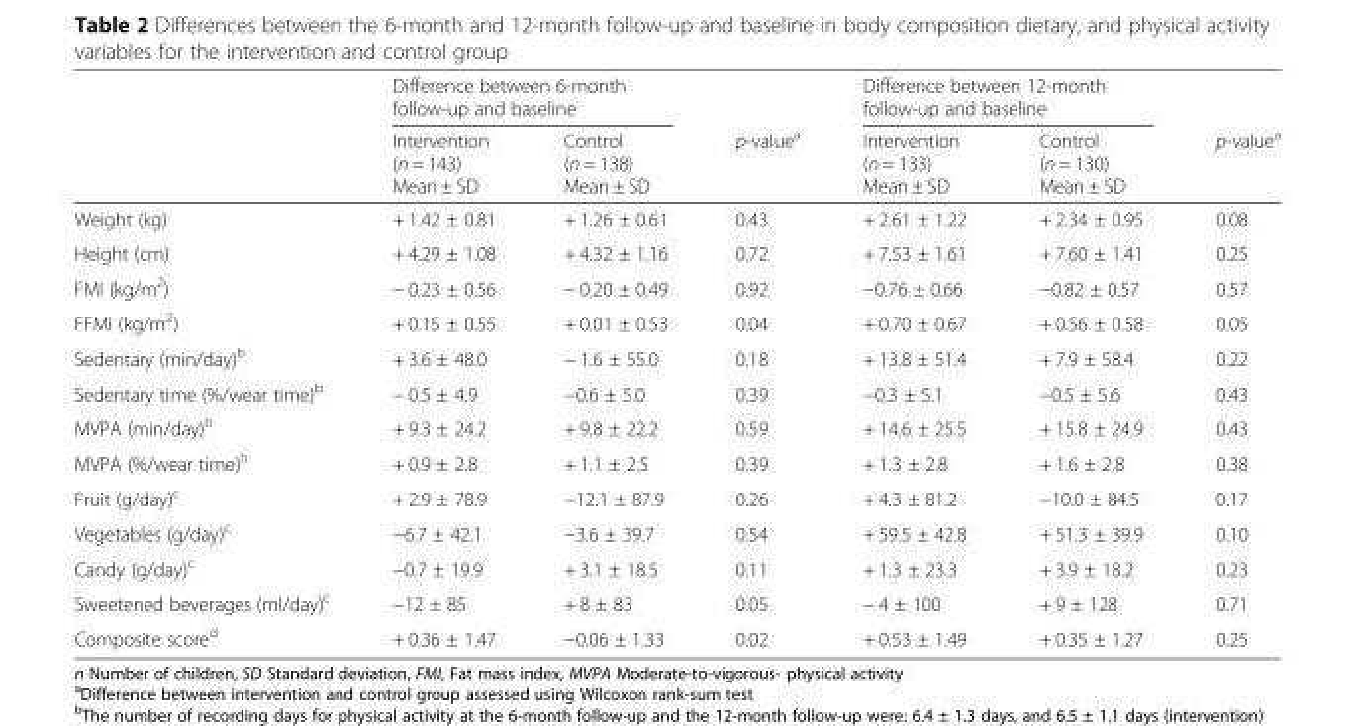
<table><thead><tr><td rowspan="2"></td><td colspan="2">Difference between 6-month follow-up and baseline</td><td rowspan="2">p-value<sup>a</sup></td><td colspan="2">Difference between 12-month follow-up and baseline</td><td rowspan="2">p-value<sup>a</sup></td></tr><tr><td>Intervention (n = 143) Mean ± SD</td><td>Control (n = 138) Mean ± SD</td><td>Intervention (n = 133) Mean ± SD</td><td>Control (n = 130) Mean ± SD</td></tr></thead><tbody><tr><td>Weight (kg)</td><td>+ 1.42 ± 0.81</td><td>+ 1.26 ± 0.61</td><td>0.43</td><td>+ 2.61 ± 1.22</td><td>+ 2.34 ± 0.95</td><td>0.08</td></tr><tr><td>Height (cm)</td><td>+ 4.29 ± 1.08</td><td>+ 4.32 ± 1.16</td><td>0.72</td><td>+ 7.53 ± 1.61</td><td>+ 7.60 ± 1.41</td><td>0.25</td></tr><tr><td>FMI (kg/m<sup>2</sup>)</td><td>− 0.23 ± 0.56</td><td>− 0.20 ± 0.49</td><td>0.92</td><td>−0.76 ± 0.66</td><td>−0.82 ± 0.57</td><td>0.57</td></tr><tr><td>FFMI (kg/m<sup>2</sup>)</td><td>+ 0.15 ± 0.55</td><td>+ 0.01 ± 0.53</td><td>0.04</td><td>+ 0.70 ± 0.67</td><td>+ 0.56 ± 0.58</td><td>0.05</td></tr><tr><td>Sedentary (min/day)<sup>b</sup></td><td>+ 3.6 ± 48.0</td><td>− 1.6 ± 55.0</td><td>0.18</td><td>+ 13.8 ± 51.4</td><td>+ 7.9 ± 58.4</td><td>0.22</td></tr><tr><td>Sedentary time (%/wear time)<sup>b</sup></td><td>− 0.5 ± 4.9</td><td>−0.6 ± 5.0</td><td>0.39</td><td>−0.3 ± 5.1</td><td>−0.5 ± 5.6</td><td>0.43</td></tr><tr><td>MVPA (min/day)<sup>b</sup></td><td>+ 9.3 ± 24.2</td><td>+ 9.8 ± 22.2</td><td>0.59</td><td>+ 14.6 ± 25.5</td><td>+ 15.8 ± 24.9</td><td>0.43</td></tr><tr><td>MVPA (%/wear time)<sup>b</sup></td><td>+ 0.9 ± 2.8</td><td>+ 1.1 ± 2.5</td><td>0.39</td><td>+ 1.3 ± 2.8</td><td>+ 1.6 ± 2.8</td><td>0.38</td></tr><tr><td>Fruit (g/day)<sup>c</sup></td><td>+ 2.9 ± 78.9</td><td>−12.1 ± 87.9</td><td>0.26</td><td>+ 4.3 ± 81.2</td><td>−10.0 ± 84.5</td><td>0.17</td></tr><tr><td>Vegetables (g/day)<sup>c</sup></td><td>−6.7 ± 42.1</td><td>−3.6 ± 39.7</td><td>0.54</td><td>+ 59.5 ± 42.8</td><td>+ 51.3 ± 39.9</td><td>0.10</td></tr><tr><td>Candy (g/day)<sup>c</sup></td><td>−0.7 ± 19.9</td><td>+ 3.1 ± 18.5</td><td>0.11</td><td>+ 1.3 ± 23.3</td><td>+ 3.9 ± 18.2</td><td>0.23</td></tr><tr><td>Sweetened beverages (ml/day)<sup>c</sup></td><td>−12 ± 85</td><td>+ 8 ± 83</td><td>0.05</td><td>− 4 ± 100</td><td>+ 9 ± 128</td><td>0.71</td></tr><tr><td>Composite score<sup>d</sup></td><td>+ 0.36 ± 1.47</td><td>−0.06 ± 1.33</td><td>0.02</td><td>+ 0.53 ± 1.49</td><td>+ 0.35 ± 1.27</td><td>0.25</td></tr></tbody></table>